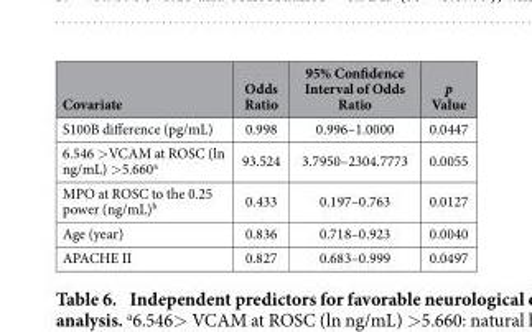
<table><thead><tr><td>Covariate</td><td>Odds Ratio</td><td>95% Confidence Interval of Odds Ratio</td><td>p Value</td></tr></thead><tbody><tr><td>S100B difference (pg/mL)</td><td>0.998</td><td>0.996–1.0000</td><td>0.0447</td></tr><tr><td>6.546 &gt; VCAM at ROSC (ln ng/mL) &gt; 5.660<sup>a</sup></td><td>93.524</td><td>3.7950–2304.7773</td><td>0.0055</td></tr><tr><td>MPO at ROSC to the 0.25 power (ng/mL)<sup>b</sup></td><td>0.433</td><td>0.197–0.763</td><td>0.0127</td></tr><tr><td>Age (year)</td><td>0.836</td><td>0.718–0.923</td><td>0.0040</td></tr><tr><td>APACHE II</td><td>0.827</td><td>0.683–0.999</td><td>0.0497</td></tr></tbody></table>